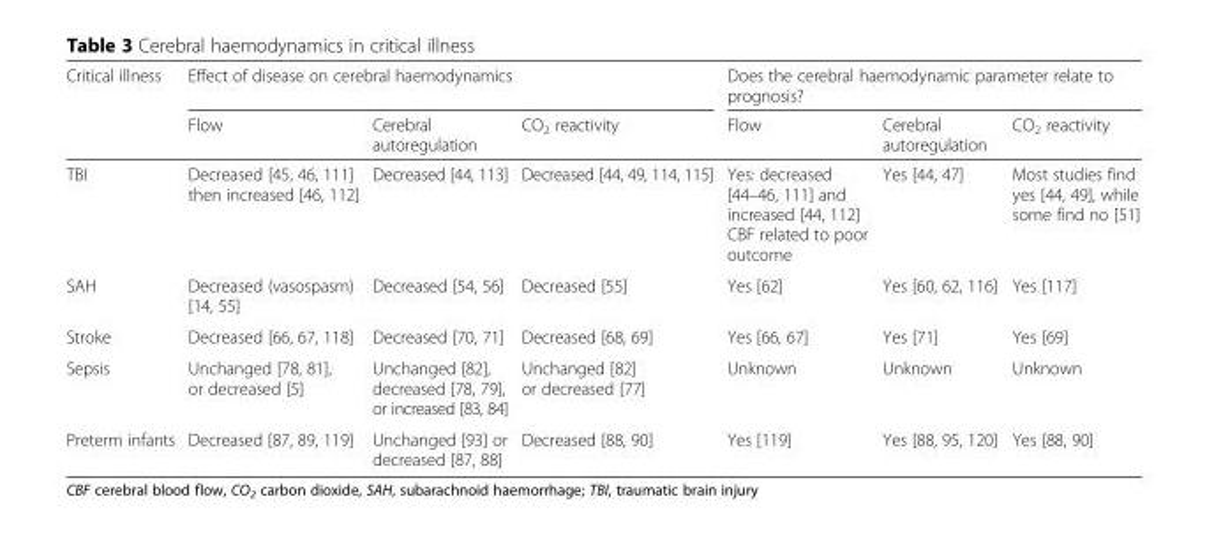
<table><thead><tr><td rowspan="2">Critical illness</td><td colspan="3">Effect of disease on cerebral haemodynamics</td><td colspan="3">Does the cerebral haemodynamic parameter relate to prognosis?</td></tr><tr><td>Flow</td><td>Cerebral autoregulation</td><td>CO<sub>2</sub> reactivity</td><td>Flow</td><td>Cerebral autoregulation</td><td>CO<sub>2</sub> reactivity</td></tr></thead><tbody><tr><td>TBI</td><td>Decreased [45, 46, 111] then increased [46, 112]</td><td>Decreased [44, 113]</td><td>Decreased [44, 49, 114, 115]</td><td>Yes: decreased [44–46, 111] and increased [44, 112] CBF related to poor outcome</td><td>Yes [44, 47]</td><td>Most studies find yes [44, 49], while some find no [51]</td></tr><tr><td>SAH</td><td>Decreased (vasospasm) [14, 55]</td><td>Decreased [54, 56]</td><td>Decreased [55]</td><td>Yes [62]</td><td>Yes [60, 62, 116]</td><td>Yes [117]</td></tr><tr><td>Stroke</td><td>Decreased [66, 67, 118]</td><td>Decreased [70, 71]</td><td>Decreased [68, 69]</td><td>Yes [66, 67]</td><td>Yes [71]</td><td>Yes [69]</td></tr><tr><td>Sepsis</td><td>Unchanged [78, 81], or decreased [5]</td><td>Unchanged [82], decreased [78, 79], or increased [83, 84]</td><td>Unchanged [82] or decreased [77]</td><td>Unknown</td><td>Unknown</td><td>Unknown</td></tr><tr><td>Preterm infants</td><td>Decreased [87, 89, 119]</td><td>Unchanged [93] or decreased [87, 88]</td><td>Decreased [88, 90]</td><td>Yes [119]</td><td>Yes [88, 95, 120]</td><td>Yes [88, 90]</td></tr></tbody></table>